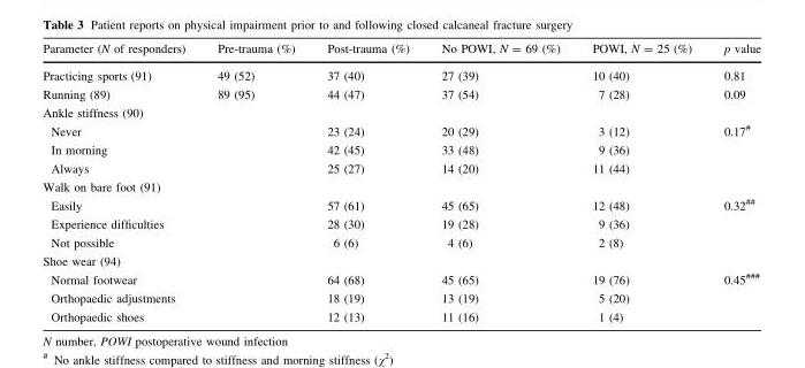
<table><thead><tr><td>Parameter (N of responders)</td><td>Pre-trauma (%)</td><td>Post-trauma (%)</td><td>No POWI, N = 69 (%)</td><td>POWI, N = 25 (%)</td><td>p value</td></tr></thead><tbody><tr><td>Practicing sports (91)</td><td>49 (52)</td><td>37 (40)</td><td>27 (39)</td><td>10 (40)</td><td>0.81</td></tr><tr><td>Running (89)</td><td>89 (95)</td><td>44 (47)</td><td>37 (54)</td><td>7 (28)</td><td>0.09</td></tr><tr><td colspan="6">Ankle stiffness (90)</td></tr><tr><td>Never</td><td></td><td>23 (24)</td><td>20 (29)</td><td>3 (12)</td><td rowspan="3">0.17<sup>#</sup></td></tr><tr><td>In morning</td><td></td><td>42 (45)</td><td>33 (48)</td><td>9 (36)</td></tr><tr><td>Always</td><td></td><td>25 (27)</td><td>14 (20)</td><td>11 (44)</td></tr><tr><td colspan="6">Walk on bare foot (91)</td></tr><tr><td>Easily</td><td></td><td>57 (61)</td><td>45 (65)</td><td>12 (48)</td><td rowspan="3">0.32<sup>##</sup></td></tr><tr><td>Experience difficulties</td><td></td><td>28 (30)</td><td>19 (28)</td><td>9 (36)</td></tr><tr><td>Not possible</td><td></td><td>6 (6)</td><td>4 (6)</td><td>2 (8)</td></tr><tr><td colspan="6">Shoe wear (94)</td></tr><tr><td>Normal footwear</td><td></td><td>64 (68)</td><td>45 (65)</td><td>19 (76)</td><td rowspan="3">0.45<sup>###</sup></td></tr><tr><td>Orthopaedic adjustments</td><td></td><td>18 (19)</td><td>13 (19)</td><td>5 (20)</td></tr><tr><td>Orthopaedic shoes</td><td></td><td>12 (13)</td><td>11 (16)</td><td>1 (4)</td></tr></tbody></table>